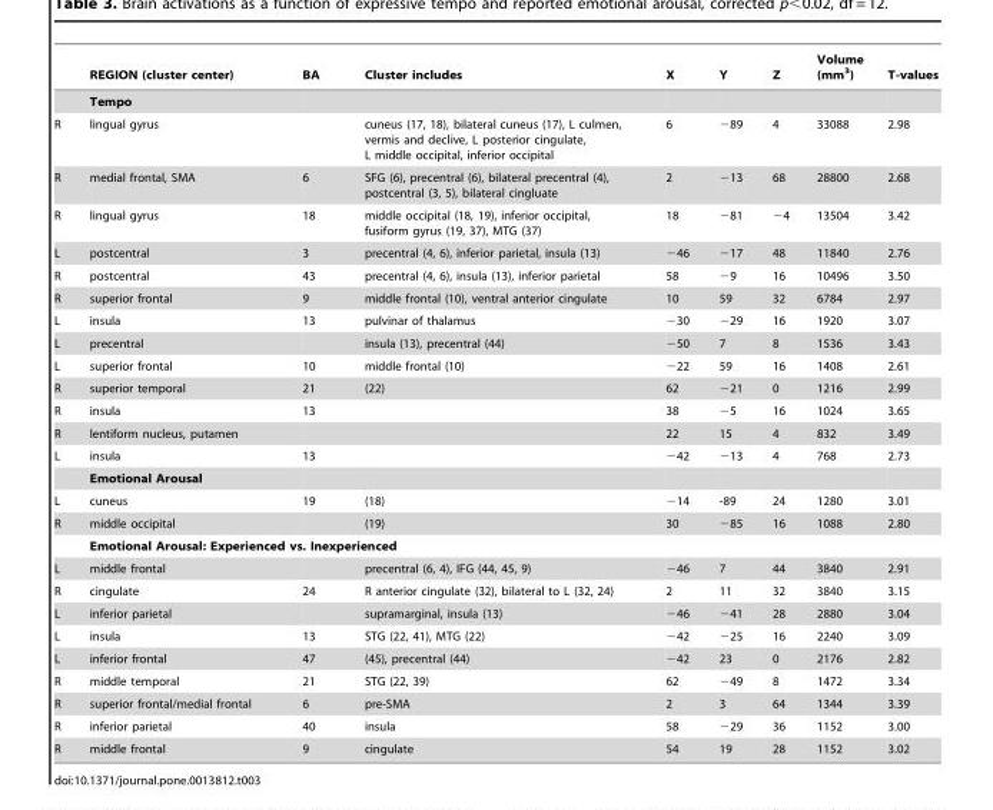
<table><thead><tr><td></td><td>REGION (cluster center)</td><td>BA</td><td>Cluster includes</td><td>X</td><td>Y</td><td>Z</td><td>Volume (mm<sup>3</sup>)</td><td>T-values</td></tr></thead><tbody><tr><td></td><td>Tempo</td><td></td><td></td><td></td><td></td><td></td><td></td><td></td></tr><tr><td>R</td><td>lingual gyrus</td><td></td><td>cuneus (17, 18), bilateral cuneus (17), L culmen, vermis and declive, L posterior cingulate, L middle occipital, inferior occipital</td><td>6</td><td>−89</td><td>4</td><td>33088</td><td>2.98</td></tr><tr><td>R</td><td>medial frontal, SMA</td><td>6</td><td>SFG (6), precentral (6), bilateral precentral (4), postcentral (3, 5), bilateral cingluate</td><td>2</td><td>−13</td><td>68</td><td>28800</td><td>2.68</td></tr><tr><td>R</td><td>lingual gyrus</td><td>18</td><td>middle occipital (18, 19), inferior occipital, fusiform gyrus (19, 37), MTG (37)</td><td>18</td><td>−81</td><td>−4</td><td>13504</td><td>3.42</td></tr><tr><td>L</td><td>postcentral</td><td>3</td><td>precentral (4, 6), inferior parietal, insula (13)</td><td>−46</td><td>−17</td><td>48</td><td>11840</td><td>2.76</td></tr><tr><td>R</td><td>postcentral</td><td>43</td><td>precentral (4, 6), insula (13), inferior parietal</td><td>58</td><td>−9</td><td>16</td><td>10496</td><td>3.50</td></tr><tr><td>R</td><td>superior frontal</td><td>9</td><td>middle frontal (10), ventral anterior cingulate</td><td>10</td><td>59</td><td>32</td><td>6784</td><td>2.97</td></tr><tr><td>L</td><td>insula</td><td>13</td><td>pulvinar of thalamus</td><td>−30</td><td>−29</td><td>16</td><td>1920</td><td>3.07</td></tr><tr><td>L</td><td>precentral</td><td></td><td>insula (13), precentral (44)</td><td>−50</td><td>7</td><td>8</td><td>1536</td><td>3.43</td></tr><tr><td>L</td><td>superior frontal</td><td>10</td><td>middle frontal (10)</td><td>−22</td><td>59</td><td>16</td><td>1408</td><td>2.61</td></tr><tr><td>R</td><td>superior temporal</td><td>21</td><td>(22)</td><td>62</td><td>−21</td><td>0</td><td>1216</td><td>2.99</td></tr><tr><td>R</td><td>insula</td><td>13</td><td></td><td>38</td><td>−5</td><td>16</td><td>1024</td><td>3.65</td></tr><tr><td>R</td><td>lentiform nucleus, putamen</td><td></td><td></td><td>22</td><td>15</td><td>4</td><td>832</td><td>3.49</td></tr><tr><td rowspan="2">L</td><td>insula</td><td>13</td><td></td><td>−42</td><td>−13</td><td>4</td><td>768</td><td>2.73</td></tr><tr><td>Emotional Arousal</td><td></td><td></td><td></td><td></td><td></td><td></td><td></td></tr><tr><td>L</td><td>cuneus</td><td>19</td><td>(18)</td><td>−14</td><td>-89</td><td>24</td><td>1280</td><td>3.01</td></tr><tr><td rowspan="2">R</td><td>middle occipital</td><td></td><td>(19)</td><td>30</td><td>−85</td><td>16</td><td>1088</td><td>2.80</td></tr><tr><td colspan="3">Emotional Arousal: Experienced vs. Inexperienced</td><td></td><td></td><td></td><td></td><td></td></tr><tr><td>L</td><td>middle frontal</td><td></td><td>precentral (6, 4), IFG (44, 45, 9)</td><td>−46</td><td>7</td><td>44</td><td>3840</td><td>2.91</td></tr><tr><td>R</td><td>cingulate</td><td>24</td><td>R anterior cingulate (32), bilateral to L (32, 24)</td><td>2</td><td>11</td><td>32</td><td>3840</td><td>3.15</td></tr><tr><td>L</td><td>inferior parietal</td><td></td><td>supramarginal, insula (13)</td><td>−46</td><td>−41</td><td>28</td><td>2880</td><td>3.04</td></tr><tr><td>L</td><td>insula</td><td>13</td><td>STG (22, 41), MTG (22)</td><td>−42</td><td>−25</td><td>16</td><td>2240</td><td>3.09</td></tr><tr><td>L</td><td>inferior frontal</td><td>47</td><td>(45), precentral (44)</td><td>−42</td><td>23</td><td>0</td><td>2176</td><td>2.82</td></tr><tr><td>R</td><td>middle temporal</td><td>21</td><td>STG (22, 39)</td><td>62</td><td>−49</td><td>8</td><td>1472</td><td>3.34</td></tr><tr><td>R</td><td>superior frontal/medial frontal</td><td>6</td><td>pre-SMA</td><td>2</td><td>3</td><td>64</td><td>1344</td><td>3.39</td></tr><tr><td>R</td><td>inferior parietal</td><td>40</td><td>insula</td><td>58</td><td>−29</td><td>36</td><td>1152</td><td>3.00</td></tr><tr><td>R</td><td>middle frontal</td><td>9</td><td>cingulate</td><td>54</td><td>19</td><td>28</td><td>1152</td><td>3.02</td></tr></tbody></table>